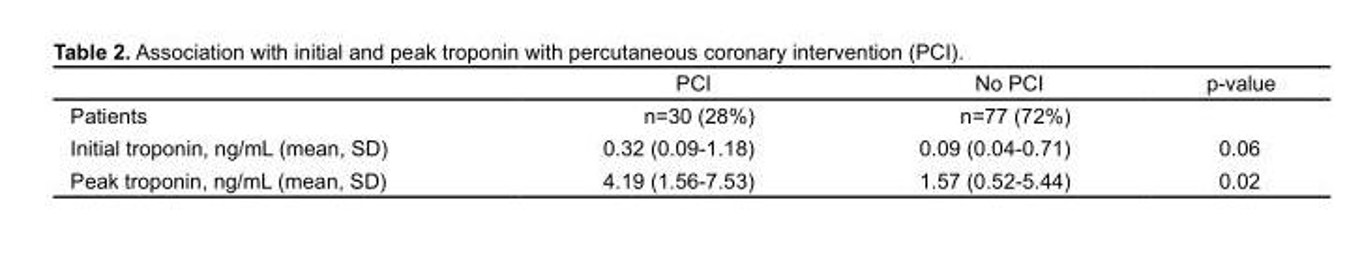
<table><thead><tr><td></td><td>PCI</td><td>No PCI</td><td>p-value</td></tr></thead><tbody><tr><td>Patients</td><td>n=30 (28%)</td><td>n=77 (72%)</td><td></td></tr><tr><td>Initial troponin, ng/mL (mean, SD)</td><td>0.32 (0.09-1.18)</td><td>0.09 (0.04-0.71)</td><td>0.06</td></tr><tr><td>Peak troponin, ng/mL (mean, SD)</td><td>4.19 (1.56-7.53)</td><td>1.57 (0.52-5.44)</td><td>0.02</td></tr></tbody></table>